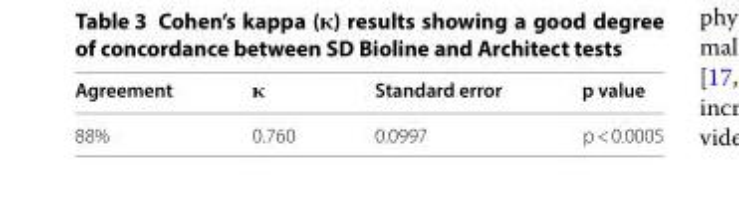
<table><thead><tr><td>Agreement</td><td>ĸ</td><td>Standard error</td><td>p value</td></tr></thead><tbody><tr><td>88%</td><td>0.760</td><td>0.0997</td><td>p &lt; 0.0005</td></tr></tbody></table>